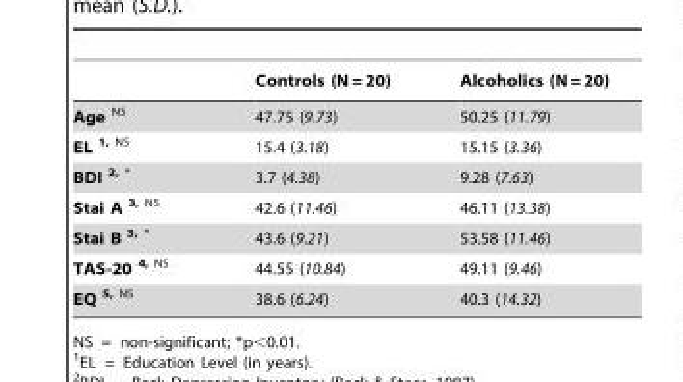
<table><thead><tr><td></td><td>Controls (N = 20)</td><td>Alcoholics (N = 20)</td></tr></thead><tbody><tr><td>Age <sup>NS</sup></td><td>47.75 (9.73)</td><td>50.25 (11.79)</td></tr><tr><td>EL 1, NS</td><td>15.4 (3.18)</td><td>15.15 (3.36)</td></tr><tr><td>BDI 2, *</td><td>3.7 (4.38)</td><td>9.28 (7.63)</td></tr><tr><td>Stai A 3, NS</td><td>42.6 (11.46)</td><td>46.11 (13.38)</td></tr><tr><td>Stai B 3, *</td><td>43.6 (9.21)</td><td>53.58 (11.46)</td></tr><tr><td>TAS-20 4, NS</td><td>44.55 (10.84)</td><td>49.11 (9.46)</td></tr><tr><td>EQ 5, NS</td><td>38.6 (6.24)</td><td>40.3 (14.32)</td></tr></tbody></table>